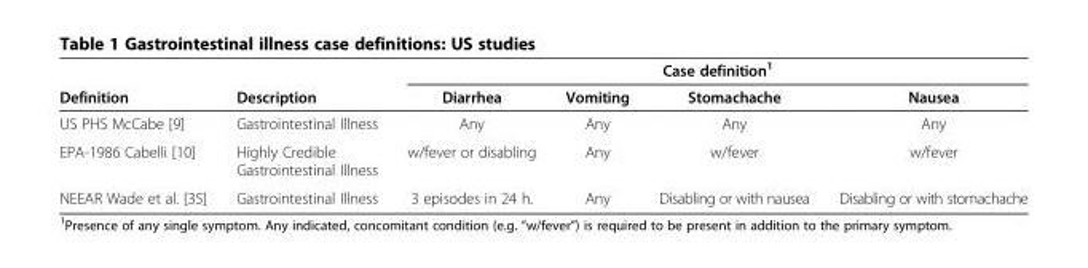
<table><thead><tr><td rowspan="2">Definition</td><td rowspan="2">Description</td><td colspan="4">Case definition<sup>1</sup></td></tr><tr><td>Diarrhea</td><td>Vomiting</td><td>Stomachache</td><td>Nausea</td></tr></thead><tbody><tr><td>US PHS McCabe [9]</td><td>Gastrointestinal Illness</td><td>Any</td><td>Any</td><td>Any</td><td>Any</td></tr><tr><td>EPA-1986 Cabelli [10]</td><td>Highly Credible Gastrointestinal Illness</td><td>w/fever or disabling</td><td>Any</td><td>w/fever</td><td>w/fever</td></tr><tr><td>NEEAR Wade et al. [35]</td><td>Gastrointestinal Illness</td><td>3 episodes in 24 h.</td><td>Any</td><td>Disabling or with nausea</td><td>Disabling or with stomachache</td></tr></tbody></table>